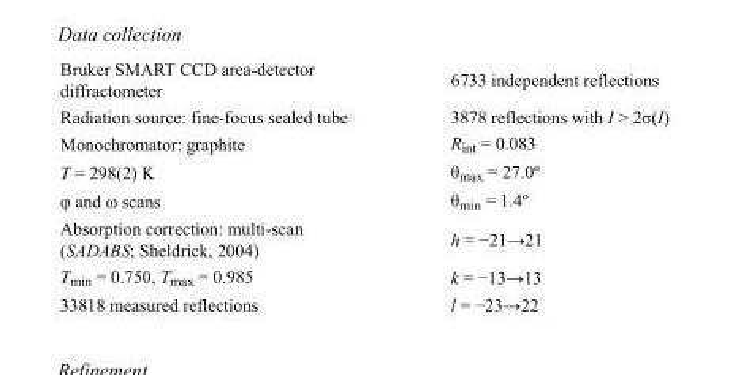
<table><tbody><tr><td>Bruker SMART CCD area-detector diffractometer</td><td>6733 independent reflections</td></tr><tr><td>Radiation source: fine-focus sealed tube</td><td>3878 reflections with I &gt; 2σ(I)</td></tr><tr><td>Monochromator: graphite</td><td>R<sub>int</sub> = 0.083</td></tr><tr><td>T = 298(2) K</td><td>θ<sub>max</sub> = 27.0º</td></tr><tr><td>φ and ω scans</td><td>θ<sub>min</sub> = 1.4º</td></tr><tr><td>Absorption correction: multi-scan (SADABS; Sheldrick, 2004)</td><td>h = −21→21</td></tr><tr><td>T<sub>min</sub> = 0.750, T<sub>max</sub> = 0.985</td><td>k = −13→13</td></tr><tr><td>33818 measured reflections</td><td>l = −23→22</td></tr></tbody></table>